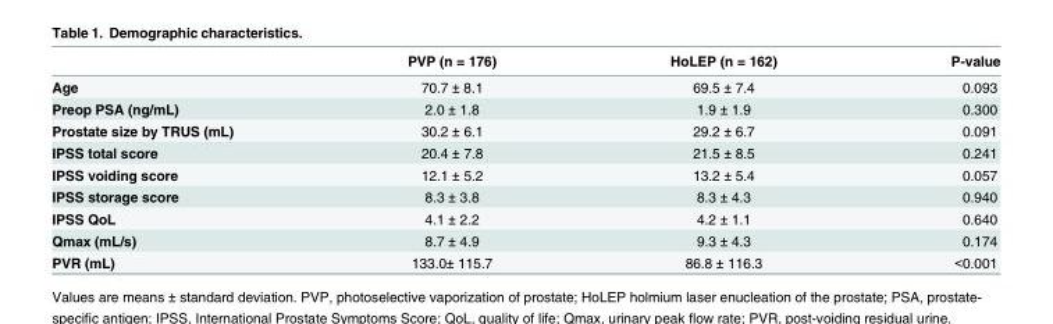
<table><thead><tr><td></td><td>PVP (n = 176)</td><td>HoLEP (n = 162)</td><td>P-value</td></tr></thead><tbody><tr><td>Age</td><td>70.7 ± 8.1</td><td>69.5 ± 7.4</td><td>0.093</td></tr><tr><td>Preop PSA (ng/mL)</td><td>2.0 ± 1.8</td><td>1.9 ± 1.9</td><td>0.300</td></tr><tr><td>Prostate size by TRUS (mL)</td><td>30.2 ± 6.1</td><td>29.2 ± 6.7</td><td>0.091</td></tr><tr><td>IPSS total score</td><td>20.4 ± 7.8</td><td>21.5 ± 8.5</td><td>0.241</td></tr><tr><td>IPSS voiding score</td><td>12.1 ± 5.2</td><td>13.2 ± 5.4</td><td>0.057</td></tr><tr><td>IPSS storage score</td><td>8.3 ± 3.8</td><td>8.3 ± 4.3</td><td>0.940</td></tr><tr><td>IPSS QoL</td><td>4.1 ± 2.2</td><td>4.2 ± 1.1</td><td>0.640</td></tr><tr><td>Qmax (mL/s)</td><td>8.7 ± 4.9</td><td>9.3 ± 4.3</td><td>0.174</td></tr><tr><td>PVR (mL)</td><td>133.0± 115.7</td><td>86.8 ± 116.3</td><td>&lt;0.001</td></tr></tbody></table>